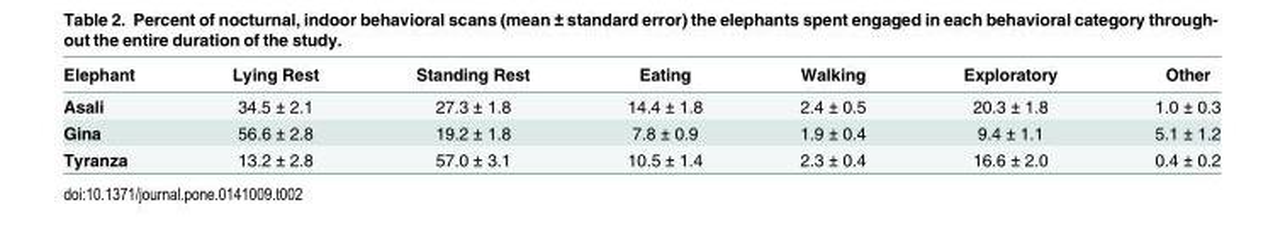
<table><thead><tr><td>Elephant</td><td>Lying Rest</td><td>Standing Rest</td><td>Eating</td><td>Walking</td><td>Exploratory</td><td>Other</td></tr></thead><tbody><tr><td>Asali</td><td>34.5 ± 2.1</td><td>27.3 ± 1.8</td><td>14.4 ± 1.8</td><td>2.4 ± 0.5</td><td>20.3 ± 1.8</td><td>1.0 ± 0.3</td></tr><tr><td>Gina</td><td>56.6 ± 2.8</td><td>19.2 ± 1.8</td><td>7.8 ± 0.9</td><td>1.9 ± 0.4</td><td>9.4 ± 1.1</td><td>5.1 ± 1.2</td></tr><tr><td>Tyranza</td><td>13.2 ± 2.8</td><td>57.0 ± 3.1</td><td>10.5 ± 1.4</td><td>2.3 ± 0.4</td><td>16.6 ± 2.0</td><td>0.4 ± 0.2</td></tr></tbody></table>